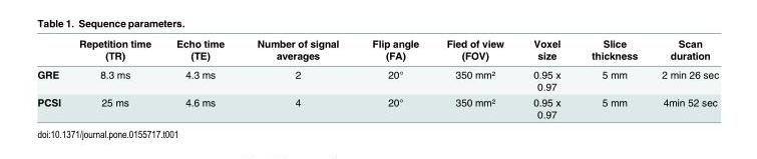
<table><thead><tr><td></td><td>Repetition time (TR)</td><td>Echo time (TE)</td><td>Number of signal averages</td><td>Flip angle (FA)</td><td>Fied of view (FOV)</td><td>Voxel size</td><td>Slice thickness</td><td>Scan duration</td></tr></thead><tbody><tr><td>GRE</td><td>8.3 ms</td><td>4.3 ms</td><td>2</td><td>20°</td><td>350 mm²</td><td>0.95 x 0.97</td><td>5 mm</td><td>2 min 26 sec</td></tr><tr><td>PCSI</td><td>25 ms</td><td>4.6 ms</td><td>4</td><td>20°</td><td>350 mm²</td><td>0.95 x 0.97</td><td>5 mm</td><td>4min 52 sec</td></tr></tbody></table>